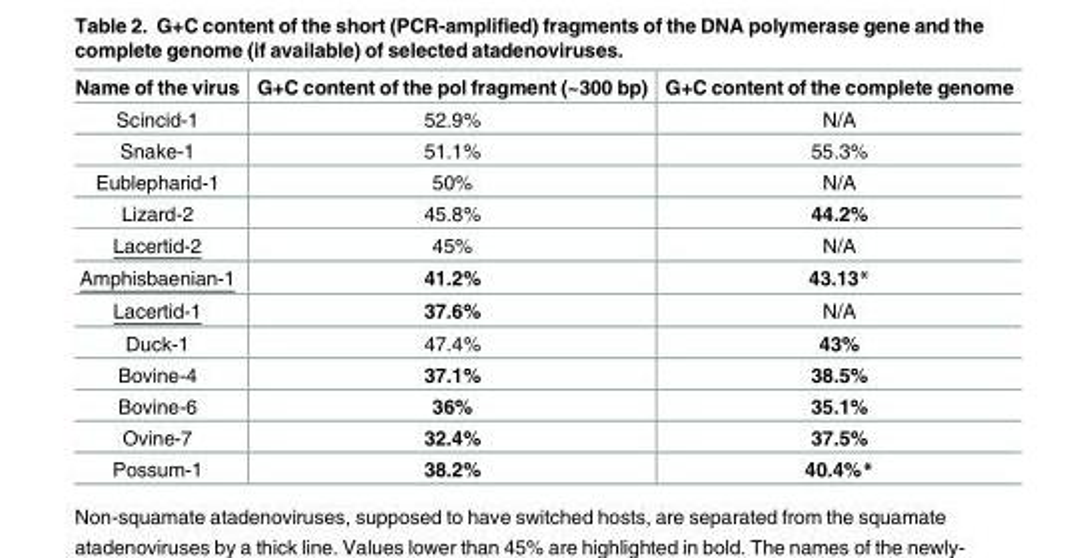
<table><thead><tr><td>Name of the virus</td><td>G+C content of the pol fragment (~300 bp)</td><td>G+C content of the complete genome</td></tr></thead><tbody><tr><td>Scincid-1</td><td>52.9%</td><td>N/A</td></tr><tr><td>Snake-1</td><td>51.1%</td><td>55.3%</td></tr><tr><td>Eublepharid-1</td><td>50%</td><td>N/A</td></tr><tr><td>Lizard-2</td><td>45.8%</td><td>44.2%</td></tr><tr><td>Lacertid-2</td><td>45%</td><td>N/A</td></tr><tr><td>Amphisbaenian-1</td><td>41.2%</td><td>43.13*</td></tr><tr><td>Lacertid-1</td><td>37.6%</td><td>N/A</td></tr><tr><td>Duck-1</td><td>47.4%</td><td>43%</td></tr><tr><td>Bovine-4</td><td>37.1%</td><td>38.5%</td></tr><tr><td>Bovine-6</td><td>36%</td><td>35.1%</td></tr><tr><td>Ovine-7</td><td>32.4%</td><td>37.5%</td></tr><tr><td>Possum-1</td><td>38.2%</td><td>40.4%*</td></tr></tbody></table>